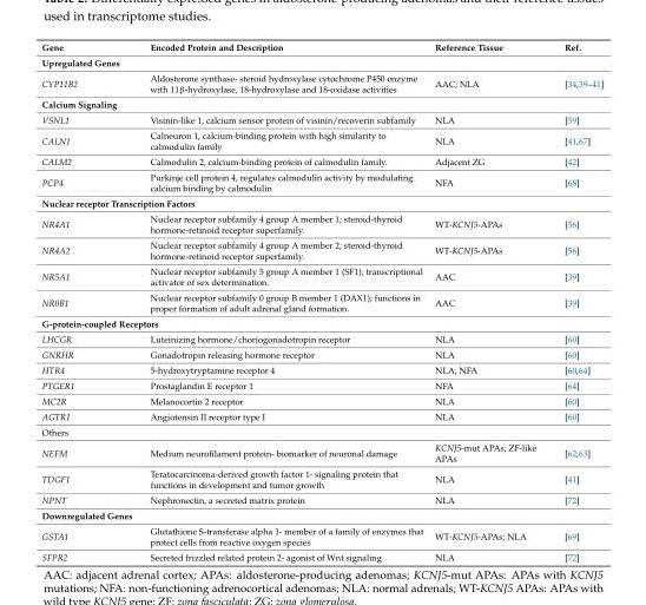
<table><thead><tr><td>Gene</td><td>Encoded Protein and Description</td><td>Reference Tissue</td><td>Ref.</td></tr></thead><tbody><tr><td colspan="4">Upregulated Genes</td></tr><tr><td>CYP11B2</td><td>Aldosterone synthase- steroid hydroxylase cytochrome P450 enzyme with 11β-hydroxylase, 18-hydroxylase and 18-oxidase activities</td><td>AAC; NLA</td><td>[34,39–41]</td></tr><tr><td colspan="4">Calcium Signaling</td></tr><tr><td>VSNL1</td><td>Visinin-like 1, calcium sensor protein of visinin/recoverin subfamily</td><td>NLA</td><td>[59]</td></tr><tr><td>CALN1</td><td>Calneuron 1, calcium-binding protein with high similarity to calmodulin family</td><td>NLA</td><td>[41,67]</td></tr><tr><td>CALM2</td><td>Calmodulin 2, calcium-binding protein of calmodulin family.</td><td>Adjacent ZG</td><td>[42]</td></tr><tr><td>PCP4</td><td>Purkinje cell protein 4, regulates calmodulin activity by modulating calcium binding by calmodulin</td><td>NFA</td><td>[68]</td></tr><tr><td colspan="4">Nuclear receptor Transcription Factors</td></tr><tr><td>NR4A1</td><td>Nuclear receptor subfamily 4 group A member 1; steroid-thyroid hormone-retinoid receptor superfamily.</td><td>WT-KCNJ5-APAs</td><td>[56]</td></tr><tr><td>NR4A2</td><td>Nuclear receptor subfamily 4 group A member 2; steroid-thyroid hormone-retinoid receptor superfamily.</td><td>WT-KCNJ5-APAs</td><td>[56]</td></tr><tr><td>NR5A1</td><td>Nuclear receptor subfamily 5 group A member 1 (SF1); transcriptional activator of sex determination.</td><td>AAC</td><td>[39]</td></tr><tr><td>NR0B1</td><td>Nuclear receptor subfamily 0 group B member 1 (DAX1); functions in proper formation of adult adrenal gland formation.</td><td>AAC</td><td>[39]</td></tr><tr><td colspan="4">G-protein-coupled Receptors</td></tr><tr><td>LHCGR</td><td>Luteinizing hormone/choriogonadotropin receptor</td><td>NLA</td><td>[60]</td></tr><tr><td>GNRHR</td><td>Gonadotropin releasing hormone receptor</td><td>NLA</td><td>[60]</td></tr><tr><td>HTR4</td><td>5-hydroxytryptamine receptor 4</td><td>NLA; NFA</td><td>[60,64]</td></tr><tr><td>PTGER1</td><td>Prostaglandin E receptor 1</td><td>NFA</td><td>[64]</td></tr><tr><td>MC2R</td><td>Melanocortin 2 receptor</td><td>NLA</td><td>[60]</td></tr><tr><td>AGTR1</td><td>Angiotensin II receptor type I</td><td>NLA</td><td>[60]</td></tr><tr><td colspan="4">Others</td></tr><tr><td>NEFM</td><td>Medium neurofilament protein- biomarker of neuronal damage</td><td>KCNJ5-mut APAs; ZF-like APAs</td><td>[62,63]</td></tr><tr><td>TDGF1</td><td>Teratocarcinoma-derived growth factor 1- signaling protein that functions in development and tumor growth</td><td>NLA</td><td>[41]</td></tr><tr><td>NPNT</td><td>Nephronectin, a secreted matrix protein</td><td>NLA</td><td>[72]</td></tr><tr><td colspan="4">Downregulated Genes</td></tr><tr><td>GSTA1</td><td>Glutathione S-transferase alpha 1- member of a family of enzymes that protect cells from reactive oxygen species</td><td>WT-KCNJ5-APAs; NLA</td><td>[69]</td></tr><tr><td>SFPR2</td><td>Secreted frizzled related protein 2- agonist of Wnt signaling</td><td>NLA</td><td>[72]</td></tr></tbody></table>